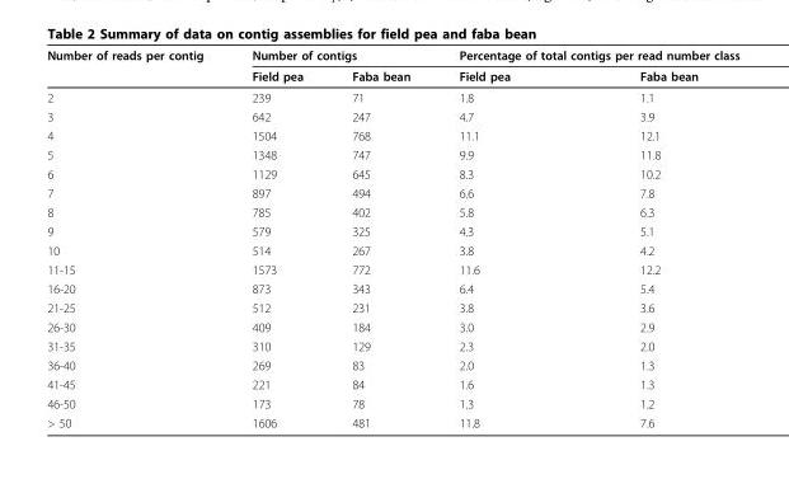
<table><thead><tr><td rowspan="2">Number of reads per contig</td><td colspan="2">Number of contigs</td><td colspan="2">Percentage of total contigs per read number class</td></tr><tr><td>Field pea</td><td>Faba bean</td><td>Field pea</td><td>Faba bean</td></tr></thead><tbody><tr><td>2</td><td>239</td><td>71</td><td>1.8</td><td>1.1</td></tr><tr><td>3</td><td>642</td><td>247</td><td>4.7</td><td>3.9</td></tr><tr><td>4</td><td>1504</td><td>768</td><td>11.1</td><td>12.1</td></tr><tr><td>5</td><td>1348</td><td>747</td><td>9.9</td><td>11.8</td></tr><tr><td>6</td><td>1129</td><td>645</td><td>8.3</td><td>10.2</td></tr><tr><td>7</td><td>897</td><td>494</td><td>6.6</td><td>7.8</td></tr><tr><td>8</td><td>785</td><td>402</td><td>5.8</td><td>6.3</td></tr><tr><td>9</td><td>579</td><td>325</td><td>4.3</td><td>5.1</td></tr><tr><td>10</td><td>514</td><td>267</td><td>3.8</td><td>4.2</td></tr><tr><td>11-15</td><td>1573</td><td>772</td><td>11.6</td><td>12.2</td></tr><tr><td>16-20</td><td>873</td><td>343</td><td>6.4</td><td>5.4</td></tr><tr><td>21-25</td><td>512</td><td>231</td><td>3.8</td><td>3.6</td></tr><tr><td>26-30</td><td>409</td><td>184</td><td>3.0</td><td>2.9</td></tr><tr><td>31-35</td><td>310</td><td>129</td><td>2.3</td><td>2.0</td></tr><tr><td>36-40</td><td>269</td><td>83</td><td>2.0</td><td>1.3</td></tr><tr><td>41-45</td><td>221</td><td>84</td><td>1.6</td><td>1.3</td></tr><tr><td>46-50</td><td>173</td><td>78</td><td>1.3</td><td>1.2</td></tr><tr><td>&gt; 50</td><td>1606</td><td>481</td><td>11.8</td><td>7.6</td></tr></tbody></table>